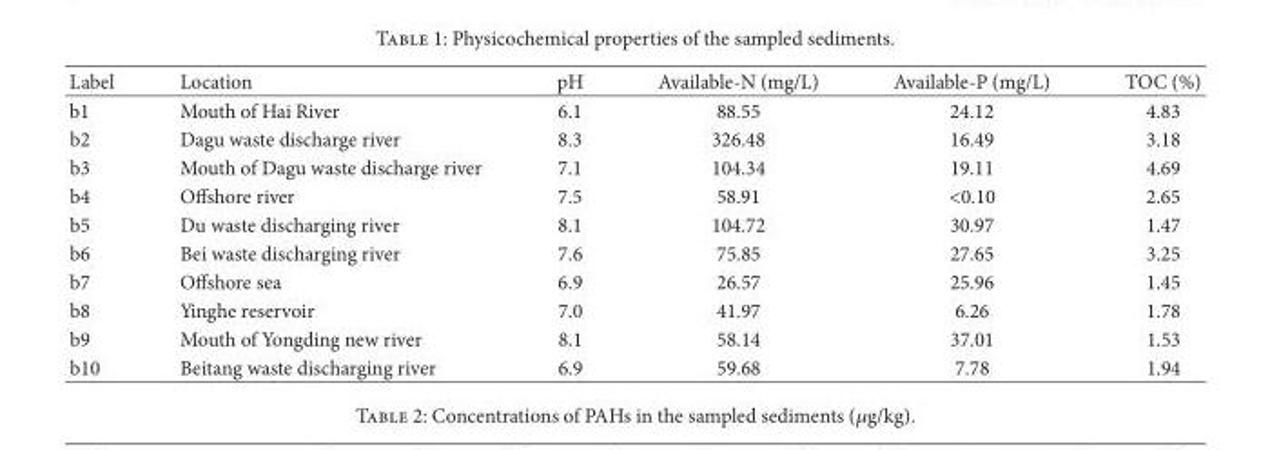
<table><thead><tr><td>Label</td><td>Location</td><td>pH</td><td>Available-N (mg/L)</td><td>Available-P (mg/L)</td><td>TOC (%)</td></tr></thead><tbody><tr><td>b1</td><td>Mouth of Hai River</td><td>6.1</td><td>88.55</td><td>24.12</td><td>4.83</td></tr><tr><td>b2</td><td>Dagu waste discharge river</td><td>8.3</td><td>326.48</td><td>16.49</td><td>3.18</td></tr><tr><td>b3</td><td>Mouth of Dagu waste discharge river</td><td>7.1</td><td>104.34</td><td>19.11</td><td>4.69</td></tr><tr><td>b4</td><td>Offshore river</td><td>7.5</td><td>58.91</td><td>&lt;0.10</td><td>2.65</td></tr><tr><td>b5</td><td>Du waste discharging river</td><td>8.1</td><td>104.72</td><td>30.97</td><td>1.47</td></tr><tr><td>b6</td><td>Bei waste discharging river</td><td>7.6</td><td>75.85</td><td>27.65</td><td>3.25</td></tr><tr><td>b7</td><td>Offshore sea</td><td>6.9</td><td>26.57</td><td>25.96</td><td>1.45</td></tr><tr><td>b8</td><td>Yinghe reservoir</td><td>7.0</td><td>41.97</td><td>6.26</td><td>1.78</td></tr><tr><td>b9</td><td>Mouth of Yongding new river</td><td>8.1</td><td>58.14</td><td>37.01</td><td>1.53</td></tr><tr><td>b10</td><td>Beitang waste discharging river</td><td>6.9</td><td>59.68</td><td>7.78</td><td>1.94</td></tr></tbody></table>